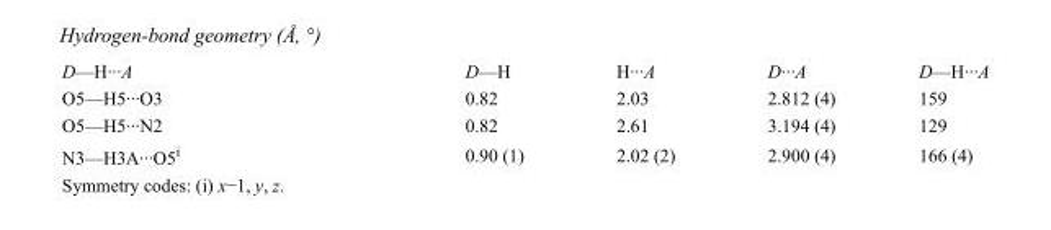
<table><tbody><tr><td>D—H···A</td><td>D—H</td><td>H···A</td><td>D···A</td><td>D—H···A</td></tr><tr><td>O5—H5···O3</td><td>0.82</td><td>2.03</td><td>2.812 (4)</td><td>159</td></tr><tr><td>O5—H5···N2</td><td>0.82</td><td>2.61</td><td>3.194 (4)</td><td>129</td></tr><tr><td>N3—H3A···O5<sup>i</sup></td><td>0.90 (1)</td><td>2.02 (2)</td><td>2.900 (4)</td><td>166 (4)</td></tr></tbody></table>